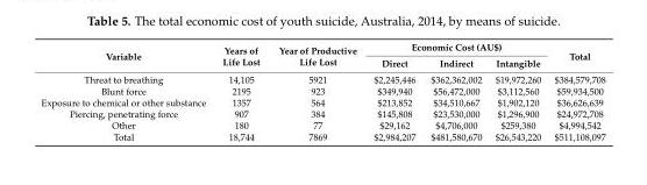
<table><thead><tr><td rowspan="2">Variable</td><td rowspan="2">Years of Life Lost</td><td rowspan="2">Year of Productive Life Lost</td><td colspan="3">Economic Cost (AU$)</td><td rowspan="2">Total</td></tr><tr><td>Direct</td><td>Indirect</td><td>Intangible</td></tr></thead><tbody><tr><td>Threat to breathing</td><td>14,105</td><td>5921</td><td>$2,245,446</td><td>$362,362,002</td><td>$19,972,260</td><td>$384,579,708</td></tr><tr><td>Blunt force</td><td>2195</td><td>923</td><td>$349,940</td><td>$56,472,000</td><td>$3,112,560</td><td>$59,934,500</td></tr><tr><td>Exposure to chemical or other substance</td><td>1357</td><td>564</td><td>$213,852</td><td>$34,510,667</td><td>$1,902,120</td><td>$36,626,639</td></tr><tr><td>Piercing, penetrating force</td><td>907</td><td>384</td><td>$145,808</td><td>$23,530,000</td><td>$1,296,900</td><td>$24,972,708</td></tr><tr><td>Other</td><td>180</td><td>77</td><td>$29,162</td><td>$4,706,000</td><td>$259,380</td><td>$4,994,542</td></tr><tr><td>Total</td><td>18,744</td><td>7869</td><td>$2,984,207</td><td>$481,580,670</td><td>$26,543,220</td><td>$511,108,097</td></tr></tbody></table>